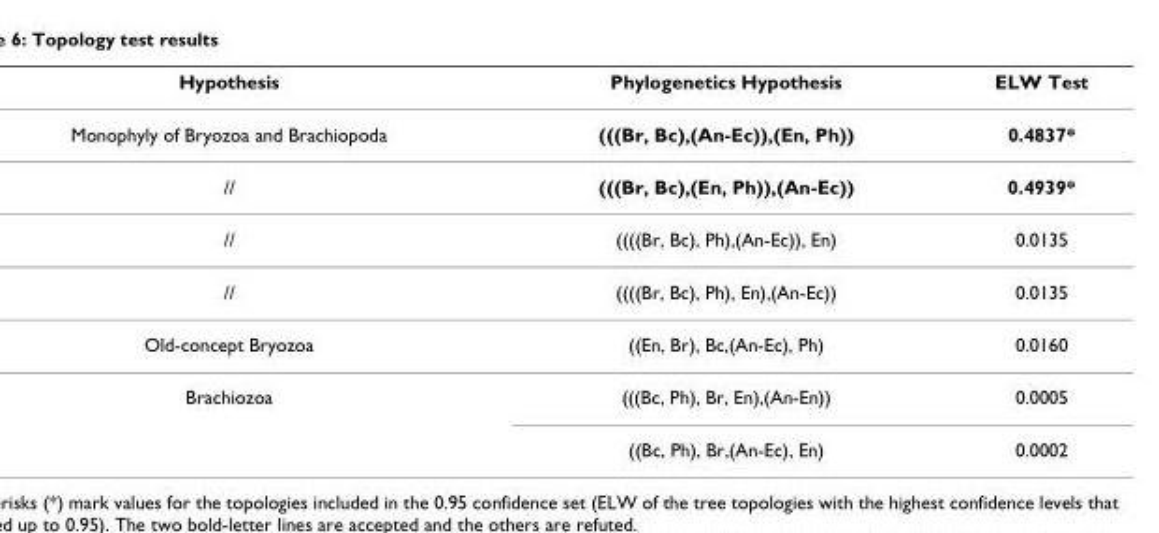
<table><thead><tr><td>Hypothesis</td><td>Phylogenetics Hypothesis</td><td>ELW Test</td></tr></thead><tbody><tr><td>Monophyly of Bryozoa and Brachiopoda</td><td>(((Br, Bc),(An-Ec)),(En, Ph))</td><td>0.4837*</td></tr><tr><td>//</td><td>(((Br, Bc),(En, Ph)),(An-Ec))</td><td>0.4939*</td></tr><tr><td>//</td><td>((((Br, Bc), Ph),(An-Ec)), En)</td><td>0.0135</td></tr><tr><td>//</td><td>((((Br, Bc), Ph), En),(An-Ec))</td><td>0.0135</td></tr><tr><td>Old-concept Bryozoa</td><td>((En, Br), Bc,(An-Ec), Ph)</td><td>0.0160</td></tr><tr><td rowspan="2">Brachiozoa</td><td>(((Bc, Ph), Br, En),(An-En))</td><td>0.0005</td></tr><tr><td>((Bc, Ph), Br,(An-Ec), En)</td><td>0.0002</td></tr></tbody></table>